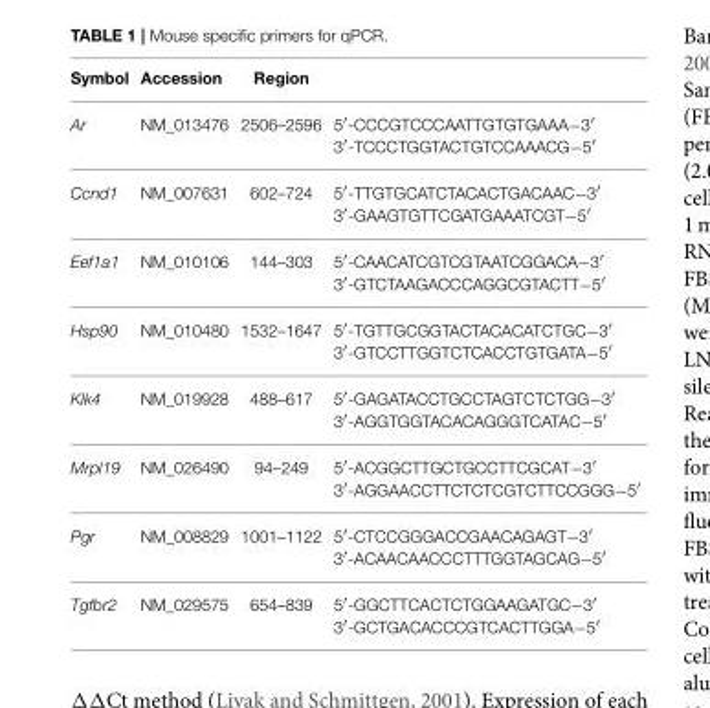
<table><thead><tr><td>Symbol</td><td>Accession</td><td>Region</td><td></td></tr></thead><tbody><tr><td>Ar</td><td>NM_013476</td><td>2506–2596</td><td>5′-CCCGTCCCAATTGTGTGAAA−3′ 3′-TCCCTGGTACTGTCCAAACG−5′</td></tr><tr><td>Ccnd1</td><td>NM_007631</td><td>602–724</td><td>5′-TTGTGCATCTACACTGACAAC−3′ 3′-GAAGTGTTCGATGAAATCGT−5′</td></tr><tr><td>Eef1a1</td><td>NM_010106</td><td>144–303</td><td>5′-CAACATCGTCGTAATCGGACA−3′ 3′-GTCTAAGACCCAGGCGTACTT−5′</td></tr><tr><td>Hsp90</td><td>NM_010480</td><td>1532–1647</td><td>5′-TGTTGCGGTACTACACATCTGC−3′ 3′-GTCCTTGGTCTCACCTGTGATA−5′</td></tr><tr><td>Klk4</td><td>NM_019928</td><td>488–617</td><td>5′-GAGATACCTGCCTAGTCTCTGG−3′ 3′-AGGTGGTACACAGGGTCATAC−5′</td></tr><tr><td>Mrpl19</td><td>NM_026490</td><td>94–249</td><td>5′-ACGGCTTGCTGCCTTCGCAT−3′ 3′-AGGAACCTTCTCTCGTCTTCCGGG−5′</td></tr><tr><td>Pgr</td><td>NM_008829</td><td>1001–1122</td><td>5′-CTCCGGGACCGAACAGAGT−3′ 3′-ACAACAACCCTTTGGTAGCAG−5′</td></tr><tr><td>Tgfbr2</td><td>NM_029575</td><td>654–839</td><td>5′-GGCTTCACTCTGGAAGATGC−3′ 3′-GCTGACACCCGTCACTTGGA−5′</td></tr></tbody></table>